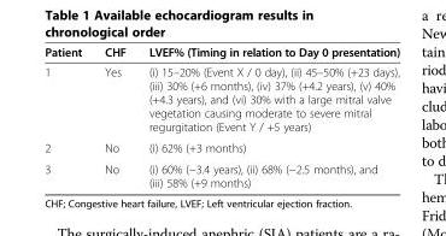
<table><thead><tr><td>Patient</td><td>CHF</td><td>LVEF% (Timing in relation to Day 0 presentation)</td></tr></thead><tbody><tr><td>1</td><td>Yes</td><td>(i) 15–20% (Event X / 0 day), (ii) 45–50% (+23 days), (iii) 30% (+6 months), (iv) 37% (+4.2 years), (v) 40% (+4.3 years), and (vi) 30% with a large mitral valve vegetation causing moderate to severe mitral regurgitation (Event Y / +5 years)</td></tr><tr><td>2</td><td>No</td><td>(i) 62% (+3 months)</td></tr><tr><td>3</td><td>No</td><td>(i) 60% (−3.4 years), (ii) 68% (−2.5 months), and (iii) 58% (+9 months)</td></tr></tbody></table>